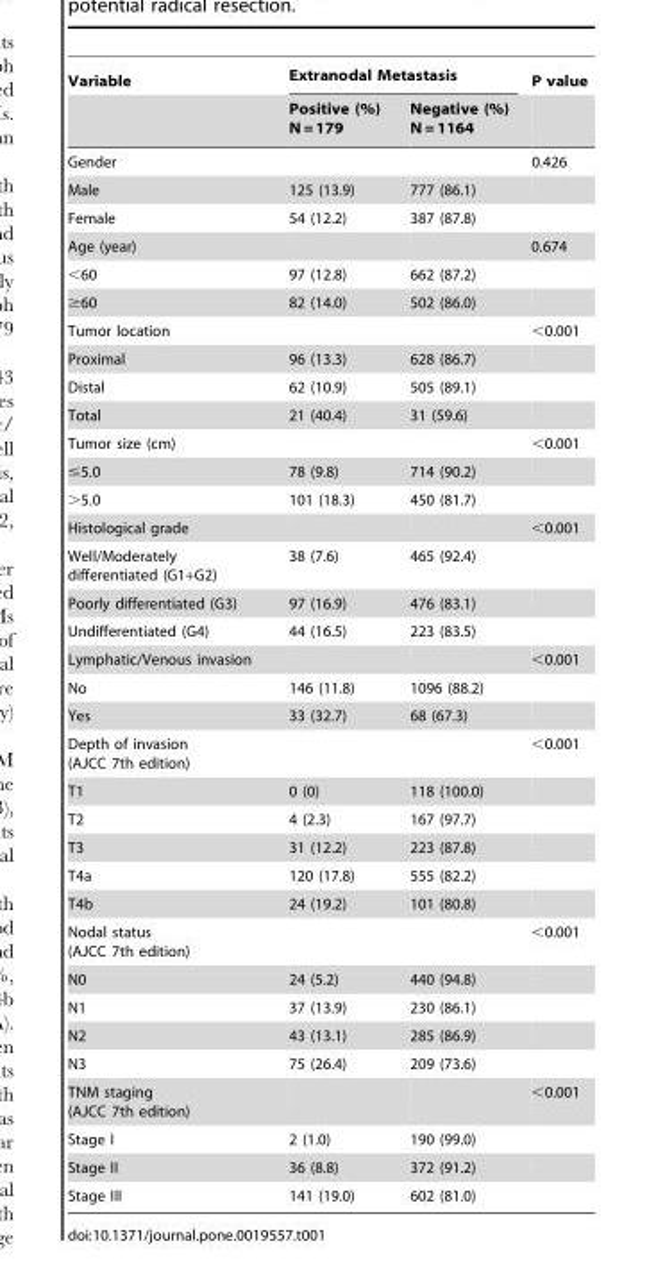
<table><thead><tr><td rowspan="2">Variable</td><td colspan="2">Extranodal Metastasis</td><td rowspan="2">P value</td></tr><tr><td>Positive (%) N = 179</td><td>Negative (%) N = 1164</td></tr></thead><tbody><tr><td>Gender</td><td></td><td></td><td>0.426</td></tr><tr><td>Male</td><td>125 (13.9)</td><td>777 (86.1)</td><td></td></tr><tr><td>Female</td><td>54 (12.2)</td><td>387 (87.8)</td><td></td></tr><tr><td>Age (year)</td><td></td><td></td><td>0.674</td></tr><tr><td>&lt;60</td><td>97 (12.8)</td><td>662 (87.2)</td><td></td></tr><tr><td>≥60</td><td>82 (14.0)</td><td>502 (86.0)</td><td></td></tr><tr><td>Tumor location</td><td></td><td></td><td>&lt;0.001</td></tr><tr><td>Proximal</td><td>96 (13.3)</td><td>628 (86.7)</td><td></td></tr><tr><td>Distal</td><td>62 (10.9)</td><td>505 (89.1)</td><td></td></tr><tr><td>Total</td><td>21 (40.4)</td><td>31 (59.6)</td><td></td></tr><tr><td>Tumor size (cm)</td><td></td><td></td><td>&lt;0.001</td></tr><tr><td>≤5.0</td><td>78 (9.8)</td><td>714 (90.2)</td><td></td></tr><tr><td>&gt;5.0</td><td>101 (18.3)</td><td>450 (81.7)</td><td></td></tr><tr><td>Histological grade</td><td></td><td></td><td>&lt;0.001</td></tr><tr><td>Well/Moderately differentiated (G1+G2)</td><td>38 (7.6)</td><td>465 (92.4)</td><td></td></tr><tr><td>Poorly differentiated (G3)</td><td>97 (16.9)</td><td>476 (83.1)</td><td></td></tr><tr><td>Undifferentiated (G4)</td><td>44 (16.5)</td><td>223 (83.5)</td><td></td></tr><tr><td>Lymphatic/Venous invasion</td><td></td><td></td><td>&lt;0.001</td></tr><tr><td>No</td><td>146 (11.8)</td><td>1096 (88.2)</td><td></td></tr><tr><td>Yes</td><td>33 (32.7)</td><td>68 (67.3)</td><td></td></tr><tr><td>Depth of invasion (AJCC 7th edition)</td><td></td><td></td><td>&lt;0.001</td></tr><tr><td>T1</td><td>0 (0)</td><td>118 (100.0)</td><td></td></tr><tr><td>T2</td><td>4 (2.3)</td><td>167 (97.7)</td><td></td></tr><tr><td>T3</td><td>31 (12.2)</td><td>223 (87.8)</td><td></td></tr><tr><td>T4a</td><td>120 (17.8)</td><td>555 (82.2)</td><td></td></tr><tr><td>T4b</td><td>24 (19.2)</td><td>101 (80.8)</td><td></td></tr><tr><td>Nodal status (AJCC 7th edition)</td><td></td><td></td><td>&lt;0.001</td></tr><tr><td>N0</td><td>24 (5.2)</td><td>440 (94.8)</td><td></td></tr><tr><td>N1</td><td>37 (13.9)</td><td>230 (86.1)</td><td></td></tr><tr><td>N2</td><td>43 (13.1)</td><td>285 (86.9)</td><td></td></tr><tr><td>N3</td><td>75 (26.4)</td><td>209 (73.6)</td><td></td></tr><tr><td>TNM staging (AJCC 7th edition)</td><td></td><td></td><td>&lt;0.001</td></tr><tr><td>Stage I</td><td>2 (1.0)</td><td>190 (99.0)</td><td></td></tr><tr><td>Stage II</td><td>36 (8.8)</td><td>372 (91.2)</td><td></td></tr><tr><td>Stage III</td><td>141 (19.0)</td><td>602 (81.0)</td><td></td></tr></tbody></table>